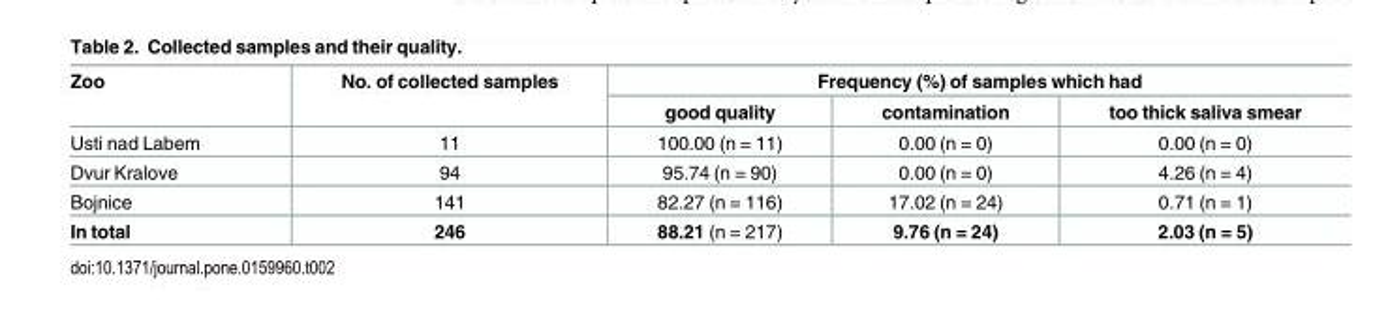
<table><thead><tr><td rowspan="2">Zoo</td><td rowspan="2">No. of collected samples</td><td colspan="3">Frequency (%) of samples which had</td></tr><tr><td>good quality</td><td>contamination</td><td>too thick saliva smear</td></tr></thead><tbody><tr><td>Usti nad Labem</td><td>11</td><td>100.00 (n = 11)</td><td>0.00 (n = 0)</td><td>0.00 (n = 0)</td></tr><tr><td>Dvur Kralove</td><td>94</td><td>95.74 (n = 90)</td><td>0.00 (n = 0)</td><td>4.26 (n = 4)</td></tr><tr><td>Bojnice</td><td>141</td><td>82.27 (n = 116)</td><td>17.02 (n = 24)</td><td>0.71 (n = 1)</td></tr><tr><td>In total</td><td>246</td><td>88.21 (n = 217)</td><td>9.76 (n = 24)</td><td>2.03 (n = 5)</td></tr></tbody></table>